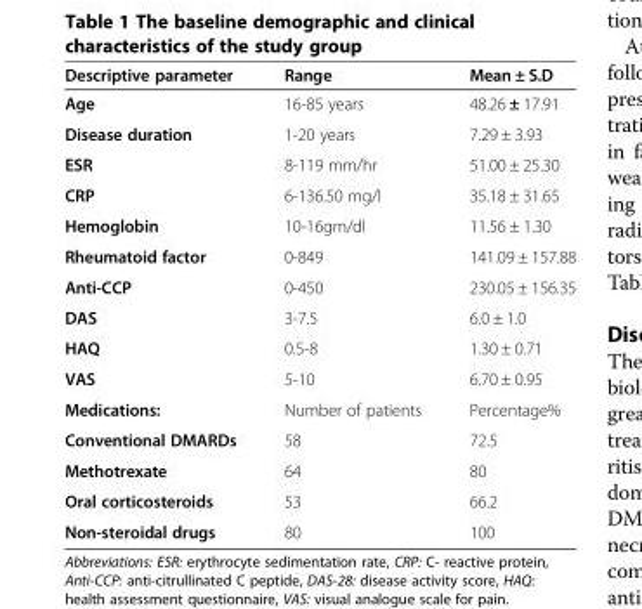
<table><thead><tr><td>Descriptive parameter</td><td>Range</td><td>Mean ± S.D</td></tr></thead><tbody><tr><td>Age</td><td>16-85 years</td><td>48.26 ± 17.91</td></tr><tr><td>Disease duration</td><td>1-20 years</td><td>7.29 ± 3.93</td></tr><tr><td>ESR</td><td>8-119 mm/hr</td><td>51.00 ± 25.30</td></tr><tr><td>CRP</td><td>6-136.50 mg/l</td><td>35.18 ± 31.65</td></tr><tr><td>Hemoglobin</td><td>10-16gm/dl</td><td>11.56 ± 1.30</td></tr><tr><td>Rheumatoid factor</td><td>0-849</td><td>141.09 ± 157.88</td></tr><tr><td>Anti-CCP</td><td>0-450</td><td>230.05 ± 156.35</td></tr><tr><td>DAS</td><td>3-7.5</td><td>6.0 ± 1.0</td></tr><tr><td>HAQ</td><td>0.5-8</td><td>1.30 ± 0.71</td></tr><tr><td>VAS</td><td>5-10</td><td>6.70 ± 0.95</td></tr><tr><td>Medications:</td><td>Number of patients</td><td>Percentage%</td></tr><tr><td>Conventional DMARDs</td><td>58</td><td>72.5</td></tr><tr><td>Methotrexate</td><td>64</td><td>80</td></tr><tr><td>Oral corticosteroids</td><td>53</td><td>66.2</td></tr><tr><td>Non-steroidal drugs</td><td>80</td><td>100</td></tr></tbody></table>